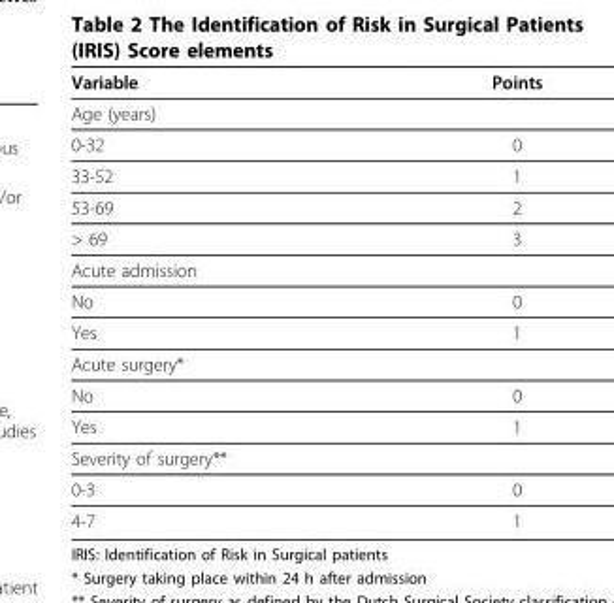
<table><thead><tr><td>Variable</td><td>Points</td></tr></thead><tbody><tr><td colspan="2">Age (years)</td></tr><tr><td>0-32</td><td>0</td></tr><tr><td>33-52</td><td>1</td></tr><tr><td>53-69</td><td>2</td></tr><tr><td>&gt; 69</td><td>3</td></tr><tr><td colspan="2">Acute admission</td></tr><tr><td>No</td><td>0</td></tr><tr><td>Yes</td><td>1</td></tr><tr><td colspan="2">Acute surgery*</td></tr><tr><td>No</td><td>0</td></tr><tr><td>Yes</td><td>1</td></tr><tr><td colspan="2">Severity of surgery**</td></tr><tr><td>0-3</td><td>0</td></tr><tr><td>4-7</td><td>1</td></tr></tbody></table>